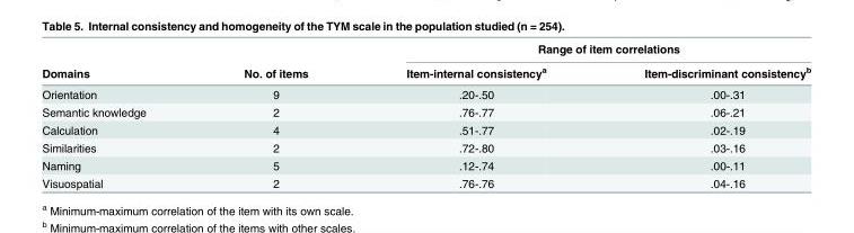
<table><thead><tr><td rowspan="2">Domains</td><td rowspan="2">No. of items</td><td colspan="2">Range of item correlations</td></tr><tr><td>Item-internal consistency<sup>a</sup></td><td>Item-discriminant consistency<sup>b</sup></td></tr></thead><tbody><tr><td>Orientation</td><td>9</td><td>.20-.50</td><td>.00-.31</td></tr><tr><td>Semantic knowledge</td><td>2</td><td>.76-.77</td><td>.06-.21</td></tr><tr><td>Calculation</td><td>4</td><td>.51-.77</td><td>.02-.19</td></tr><tr><td>Similarities</td><td>2</td><td>.72-.80</td><td>.03-.16</td></tr><tr><td>Naming</td><td>5</td><td>.12-.74</td><td>.00-.11</td></tr><tr><td>Visuospatial</td><td>2</td><td>.76-.76</td><td>.04-.16</td></tr></tbody></table>